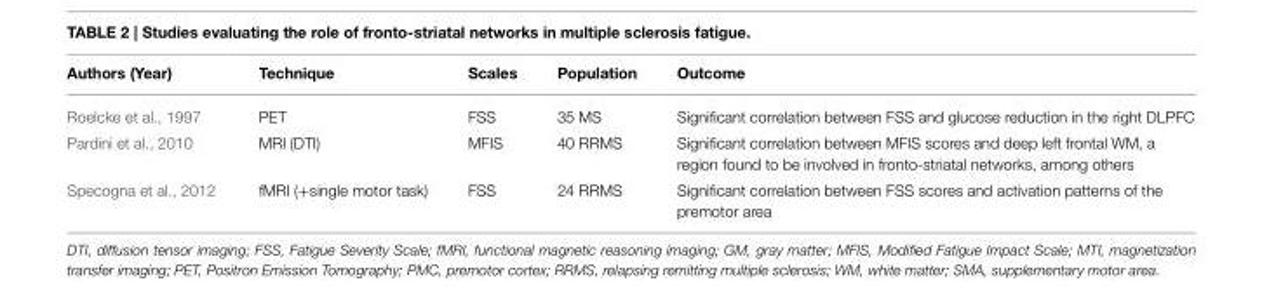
<table><thead><tr><td>Authors (Year)</td><td>Technique</td><td>Scales</td><td>Population</td><td>Outcome</td></tr></thead><tbody><tr><td>Roelcke et al., 1997</td><td>PET</td><td>FSS</td><td>35 MS</td><td>Significant correlation between FSS and glucose reduction in the right DLPFC</td></tr><tr><td>Pardini et al., 2010</td><td>MRI (DTI)</td><td>MFIS</td><td>40 RRMS</td><td>Significant correlation between MFIS scores and deep left frontal WM, a region found to be involved in fronto-striatal networks, among others</td></tr><tr><td>Specogna et al., 2012</td><td>fMRI (+single motor task)</td><td>FSS</td><td>24 RRMS</td><td>Significant correlation between FSS scores and activation patterns of the premotor area</td></tr></tbody></table>